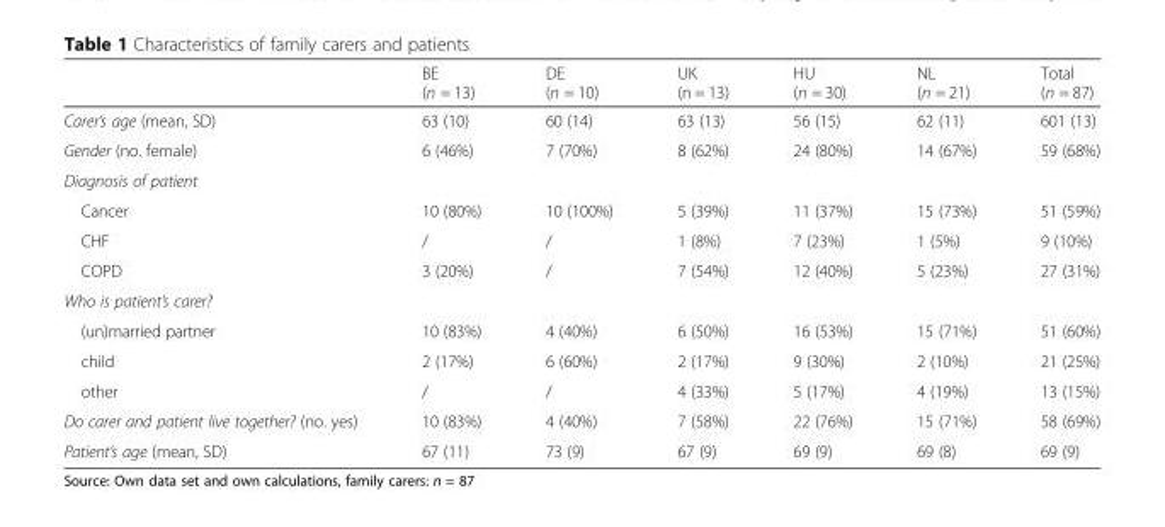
<table><thead><tr><td></td><td>BE (n = 13)</td><td>DE (n = 10)</td><td>UK (n = 13)</td><td>HU (n = 30)</td><td>NL (n = 21)</td><td>Total (n = 87)</td></tr></thead><tbody><tr><td>Carer’s age (mean, SD)</td><td>63 (10)</td><td>60 (14)</td><td>63 (13)</td><td>56 (15)</td><td>62 (11)</td><td>601 (13)</td></tr><tr><td>Gender (no. female)</td><td>6 (46%)</td><td>7 (70%)</td><td>8 (62%)</td><td>24 (80%)</td><td>14 (67%)</td><td>59 (68%)</td></tr><tr><td colspan="7">Diagnosis of patient</td></tr><tr><td>Cancer</td><td>10 (80%)</td><td>10 (100%)</td><td>5 (39%)</td><td>11 (37%)</td><td>15 (73%)</td><td>51 (59%)</td></tr><tr><td>CHF</td><td>/</td><td>/</td><td>1 (8%)</td><td>7 (23%)</td><td>1 (5%)</td><td>9 (10%)</td></tr><tr><td>COPD</td><td>3 (20%)</td><td>/</td><td>7 (54%)</td><td>12 (40%)</td><td>5 (23%)</td><td>27 (31%)</td></tr><tr><td colspan="7">Who is patient’s carer?</td></tr><tr><td>(un)married partner</td><td>10 (83%)</td><td>4 (40%)</td><td>6 (50%)</td><td>16 (53%)</td><td>15 (71%)</td><td>51 (60%)</td></tr><tr><td>child</td><td>2 (17%)</td><td>6 (60%)</td><td>2 (17%)</td><td>9 (30%)</td><td>2 (10%)</td><td>21 (25%)</td></tr><tr><td>other</td><td>/</td><td>/</td><td>4 (33%)</td><td>5 (17%)</td><td>4 (19%)</td><td>13 (15%)</td></tr><tr><td>Do carer and patient live together? (no. yes)</td><td>10 (83%)</td><td>4 (40%)</td><td>7 (58%)</td><td>22 (76%)</td><td>15 (71%)</td><td>58 (69%)</td></tr><tr><td>Patient’s age (mean, SD)</td><td>67 (11)</td><td>73 (9)</td><td>67 (9)</td><td>69 (9)</td><td>69 (8)</td><td>69 (9)</td></tr></tbody></table>